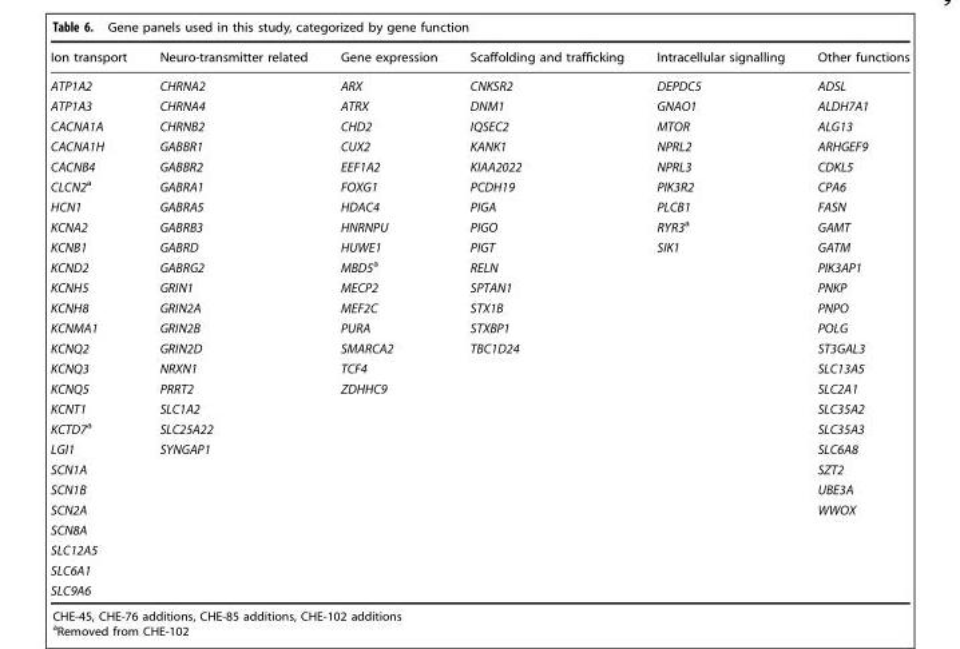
<table><thead><tr><td>Ion transport</td><td>Neuro-transmitter related</td><td>Gene expression</td><td>Scaffolding and trafficking</td><td>Intracellular signalling</td><td>Other functions</td></tr></thead><tbody><tr><td>ATP1A2</td><td>CHRNA2</td><td>ARX</td><td>CNKSR2</td><td>DEPDC5</td><td>ADSL</td></tr><tr><td>ATP1A3</td><td>CHRNA4</td><td>ATRX</td><td>DNM1</td><td>GNAO1</td><td>ALDH7A1</td></tr><tr><td>CACNA1A</td><td>CHRNB2</td><td>CHD2</td><td>IQSEC2</td><td>MTOR</td><td>ALG13</td></tr><tr><td>CACNA1H</td><td>GABBR1</td><td>CUX2</td><td>KANK1</td><td>NPRL2</td><td>ARHGEF9</td></tr><tr><td>CACNB4</td><td>GABBR2</td><td>EEF1A2</td><td>KIAA2022</td><td>NPRL3</td><td>CDKL5</td></tr><tr><td>CLCN2<sup>a</sup></td><td>GABRA1</td><td>FOXG1</td><td>PCDH19</td><td>PIK3R2</td><td>CPA6</td></tr><tr><td>HCN1</td><td>GABRA5</td><td>HDAC4</td><td>PIGA</td><td>PLCB1</td><td>FASN</td></tr><tr><td>KCNA2</td><td>GABRB3</td><td>HNRNPU</td><td>PIGO</td><td>RYR3<sup>a</sup></td><td>GAMT</td></tr><tr><td>KCNB1</td><td>GABRD</td><td>HUWE1</td><td>PIGT</td><td>SIK1</td><td>GATM</td></tr><tr><td>KCND2</td><td>GABRG2</td><td>MBD5<sup>a</sup></td><td>RELN</td><td></td><td>PIK3AP1</td></tr><tr><td>KCNH5</td><td>GRIN1</td><td>MECP2</td><td>SPTAN1</td><td></td><td>PNKP</td></tr><tr><td>KCNH8</td><td>GRIN2A</td><td>MEF2C</td><td>STX1B</td><td></td><td>PNPO</td></tr><tr><td>KCNMA1</td><td>GRIN2B</td><td>PURA</td><td>STXBP1</td><td></td><td>POLG</td></tr><tr><td>KCNQ2</td><td>GRIN2D</td><td>SMARCA2</td><td>TBC1D24</td><td></td><td>ST3GAL3</td></tr><tr><td>KCNQ3</td><td>NRXN1</td><td>TCF4</td><td></td><td></td><td>SLC13A5</td></tr><tr><td>KCNQ5</td><td>PRRT2</td><td>ZDHHC9</td><td></td><td></td><td>SLC2A1</td></tr><tr><td>KCNT1</td><td>SLC1A2</td><td></td><td></td><td></td><td>SLC35A2</td></tr><tr><td>KCTD7<sup>a</sup></td><td>SLC25A22</td><td></td><td></td><td></td><td>SLC35A3</td></tr><tr><td>LGI1</td><td>SYNGAP1</td><td></td><td></td><td></td><td>SLC6A8</td></tr><tr><td>SCN1A</td><td></td><td></td><td></td><td></td><td>SZT2</td></tr><tr><td>SCN1B</td><td></td><td></td><td></td><td></td><td>UBE3A</td></tr><tr><td>SCN2A</td><td></td><td></td><td></td><td></td><td>WWOX</td></tr><tr><td colspan="6">SCN8A</td></tr><tr><td colspan="6">SLC12A5</td></tr><tr><td colspan="6">SLC6A1</td></tr><tr><td>SLC9A6</td><td></td><td></td><td></td><td></td><td></td></tr></tbody></table>